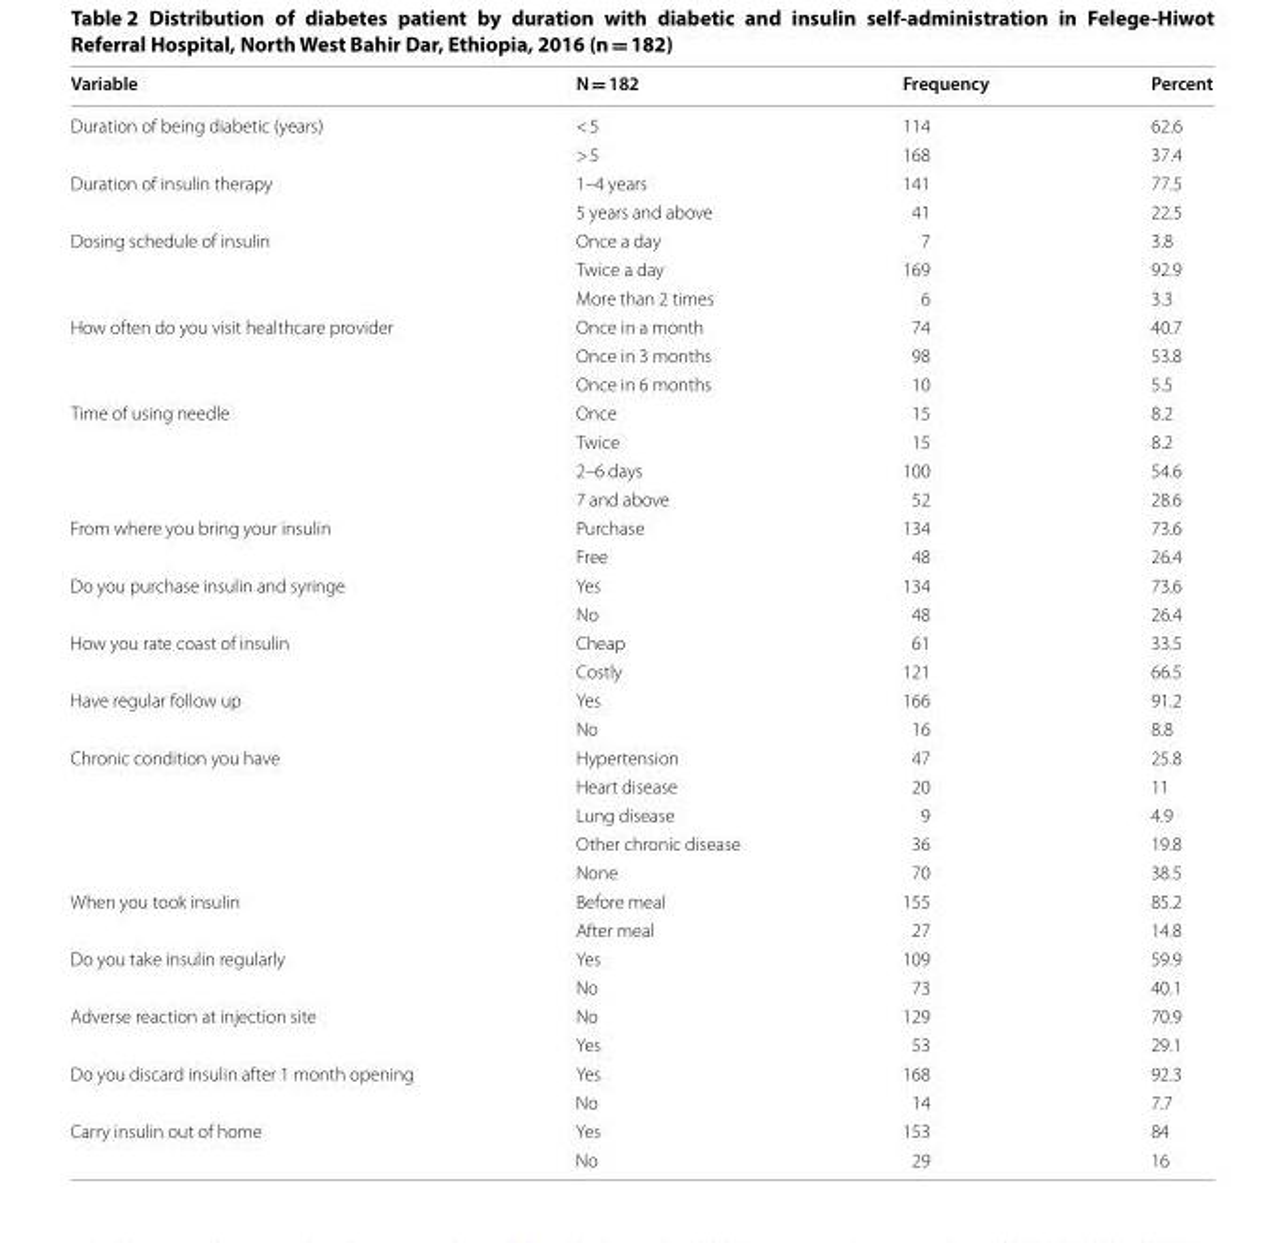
<table><thead><tr><td>Variable</td><td>N = 182</td><td>Frequency</td><td>Percent</td></tr></thead><tbody><tr><td rowspan="2">Duration of being diabetic (years)</td><td>&lt; 5</td><td>114</td><td>62.6</td></tr><tr><td>&gt; 5</td><td>168</td><td>37.4</td></tr><tr><td rowspan="2">Duration of insulin therapy</td><td>1–4 years</td><td>141</td><td>77.5</td></tr><tr><td>5 years and above</td><td>41</td><td>22.5</td></tr><tr><td rowspan="3">Dosing schedule of insulin</td><td>Once a day</td><td>7</td><td>3.8</td></tr><tr><td>Twice a day</td><td>169</td><td>92.9</td></tr><tr><td>More than 2 times</td><td>6</td><td>3.3</td></tr><tr><td rowspan="3">How often do you visit healthcare provider</td><td>Once in a month</td><td>74</td><td>40.7</td></tr><tr><td>Once in 3 months</td><td>98</td><td>53.8</td></tr><tr><td>Once in 6 months</td><td>10</td><td>5.5</td></tr><tr><td rowspan="4">Time of using needle</td><td>Once</td><td>15</td><td>8.2</td></tr><tr><td>Twice</td><td>15</td><td>8.2</td></tr><tr><td>2–6 days</td><td>100</td><td>54.6</td></tr><tr><td>7 and above</td><td>52</td><td>28.6</td></tr><tr><td rowspan="2">From where you bring your insulin</td><td>Purchase</td><td>134</td><td>73.6</td></tr><tr><td>Free</td><td>48</td><td>26.4</td></tr><tr><td rowspan="2">Do you purchase insulin and syringe</td><td>Yes</td><td>134</td><td>73.6</td></tr><tr><td>No</td><td>48</td><td>26.4</td></tr><tr><td rowspan="2">How you rate coast of insulin</td><td>Cheap</td><td>61</td><td>33.5</td></tr><tr><td>Costly</td><td>121</td><td>66.5</td></tr><tr><td rowspan="2">Have regular follow up</td><td>Yes</td><td>166</td><td>91.2</td></tr><tr><td>No</td><td>16</td><td>8.8</td></tr><tr><td rowspan="5">Chronic condition you have</td><td>Hypertension</td><td>47</td><td>25.8</td></tr><tr><td>Heart disease</td><td>20</td><td>11</td></tr><tr><td>Lung disease</td><td>9</td><td>4.9</td></tr><tr><td>Other chronic disease</td><td>36</td><td>19.8</td></tr><tr><td>None</td><td>70</td><td>38.5</td></tr><tr><td rowspan="2">When you took insulin</td><td>Before meal</td><td>155</td><td>85.2</td></tr><tr><td>After meal</td><td>27</td><td>14.8</td></tr><tr><td rowspan="2">Do you take insulin regularly</td><td>Yes</td><td>109</td><td>59.9</td></tr><tr><td>No</td><td>73</td><td>40.1</td></tr><tr><td rowspan="2">Adverse reaction at injection site</td><td>No</td><td>129</td><td>70.9</td></tr><tr><td>Yes</td><td>53</td><td>29.1</td></tr><tr><td rowspan="2">Do you discard insulin after 1 month opening</td><td>Yes</td><td>168</td><td>92.3</td></tr><tr><td>No</td><td>14</td><td>7.7</td></tr><tr><td rowspan="2">Carry insulin out of home</td><td>Yes</td><td>153</td><td>84</td></tr><tr><td>No</td><td>29</td><td>16</td></tr></tbody></table>